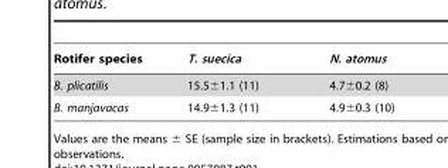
<table><thead><tr><td>Rotifer species</td><td>T. suecica</td><td>N. atomus</td></tr></thead><tbody><tr><td>B. plicatilis</td><td>15.5±1.1 (11)</td><td>4.7±0.2 (8)</td></tr><tr><td>B. manjavacas</td><td>14.9±1.3 (11)</td><td>4.9±0.3 (10)</td></tr></tbody></table>